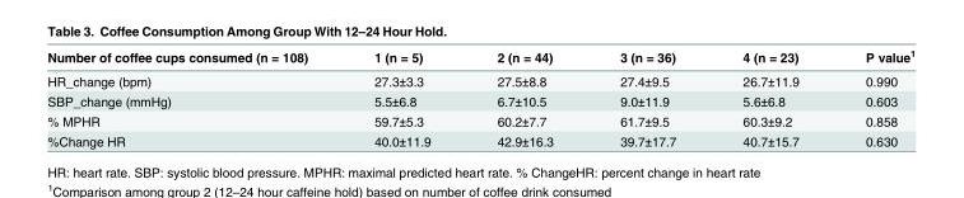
<table><thead><tr><td>Number of coffee cups consumed (n = 108)</td><td>1 (n = 5)</td><td>2 (n = 44)</td><td>3 (n = 36)</td><td>4 (n = 23)</td><td>P value<sup>1</sup></td></tr></thead><tbody><tr><td>HR_change (bpm)</td><td>27.3±3.3</td><td>27.5±8.8</td><td>27.4±9.5</td><td>26.7±11.9</td><td>0.990</td></tr><tr><td>SBP_change (mmHg)</td><td>5.5±6.8</td><td>6.7±10.5</td><td>9.0±11.9</td><td>5.6±6.8</td><td>0.603</td></tr><tr><td>% MPHR</td><td>59.7±5.3</td><td>60.2±7.7</td><td>61.7±9.5</td><td>60.3±9.2</td><td>0.858</td></tr><tr><td>%Change HR</td><td>40.0±11.9</td><td>42.9±16.3</td><td>39.7±17.7</td><td>40.7±15.7</td><td>0.630</td></tr></tbody></table>